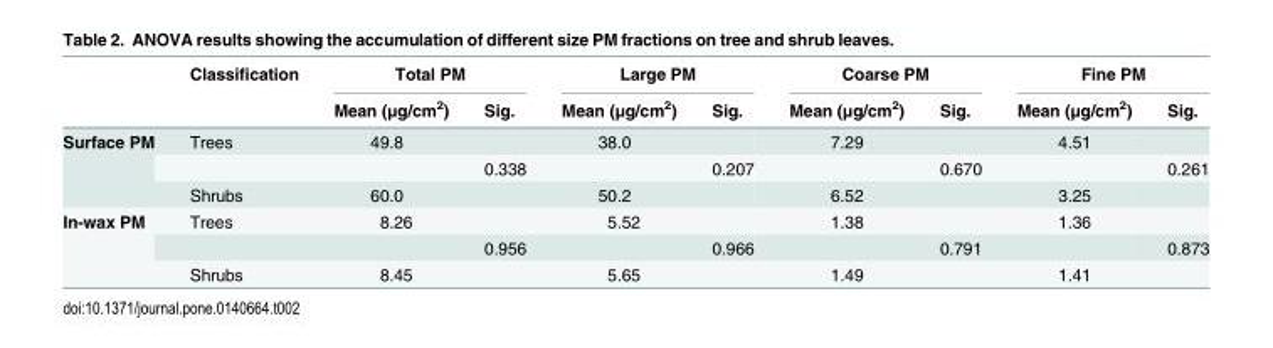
<table><thead><tr><td rowspan="2"></td><td rowspan="2">Classification</td><td colspan="2">Total PM</td><td colspan="2">Large PM</td><td colspan="2">Coarse PM</td><td colspan="2">Fine PM</td></tr><tr><td>Mean (μg/cm<sup>2</sup>)</td><td>Sig.</td><td>Mean (μg/cm<sup>2</sup>)</td><td>Sig.</td><td>Mean (μg/cm<sup>2</sup>)</td><td>Sig.</td><td>Mean (μg/cm<sup>2</sup>)</td><td>Sig.</td></tr></thead><tbody><tr><td rowspan="3">Surface PM</td><td>Trees</td><td>49.8</td><td></td><td>38.0</td><td></td><td>7.29</td><td></td><td>4.51</td><td></td></tr><tr><td></td><td></td><td>0.338</td><td></td><td>0.207</td><td></td><td>0.670</td><td></td><td>0.261</td></tr><tr><td>Shrubs</td><td>60.0</td><td></td><td>50.2</td><td></td><td>6.52</td><td></td><td>3.25</td><td></td></tr><tr><td rowspan="3">In-wax PM</td><td>Trees</td><td>8.26</td><td></td><td>5.52</td><td></td><td>1.38</td><td></td><td>1.36</td><td></td></tr><tr><td></td><td></td><td>0.956</td><td></td><td>0.966</td><td></td><td>0.791</td><td></td><td>0.873</td></tr><tr><td>Shrubs</td><td>8.45</td><td></td><td>5.65</td><td></td><td>1.49</td><td></td><td>1.41</td><td></td></tr></tbody></table>